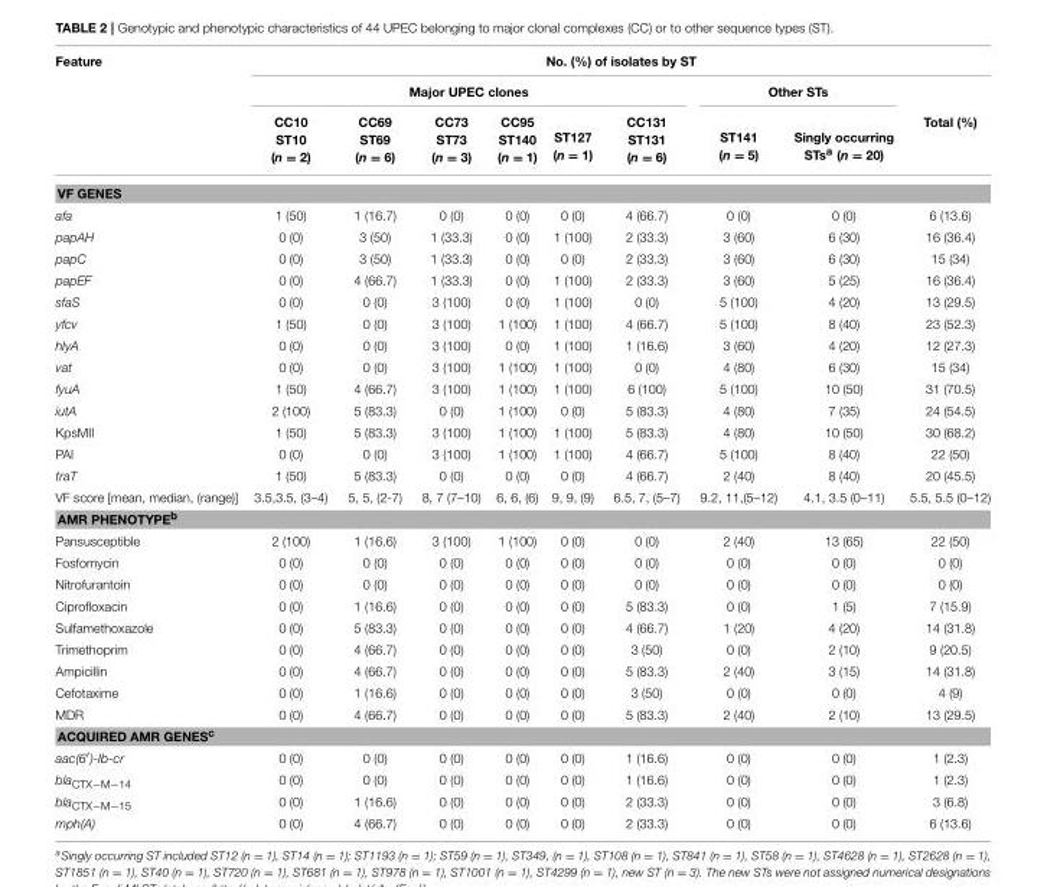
<table><thead><tr><td rowspan="3">Feature</td><td colspan="9">No. (%) of isolates by ST</td></tr><tr><td colspan="6">Major UPEC clones</td><td colspan="2">Other STs</td><td rowspan="2">Total (%)</td></tr><tr><td>CC10 ST10 (n = 2)</td><td>CC69 ST69 (n = 6)</td><td>CC73 ST73 (n = 3)</td><td>CC95 ST140 (n = 1)</td><td>ST127 (n = 1)</td><td>CC131 ST131 (n = 6)</td><td>ST141 (n = 5)</td><td>Singly occurring STs<sup>a</sup> (n = 20)</td></tr></thead><tbody><tr><td colspan="10">VF GENES</td></tr><tr><td>afa</td><td>1 (50)</td><td>1 (16.7)</td><td>0 (0)</td><td>0 (0)</td><td>0 (0)</td><td>4 (66.7)</td><td>0 (0)</td><td>0 (0)</td><td>6 (13.6)</td></tr><tr><td>papAH</td><td>0 (0)</td><td>3 (50)</td><td>1 (33.3)</td><td>0 (0)</td><td>1 (100)</td><td>2 (33.3)</td><td>3 (60)</td><td>6 (30)</td><td>16 (36.4)</td></tr><tr><td>papC</td><td>0 (0)</td><td>3 (50)</td><td>1 (33.3)</td><td>0 (0)</td><td>0 (0)</td><td>2 (33.3)</td><td>3 (60)</td><td>6 (30)</td><td>15 (34)</td></tr><tr><td>papEF</td><td>0 (0)</td><td>4 (66.7)</td><td>1 (33.3)</td><td>0 (0)</td><td>1 (100)</td><td>2 (33.3)</td><td>3 (60)</td><td>5 (25)</td><td>16 (36.4)</td></tr><tr><td>sfaS</td><td>0 (0)</td><td>0 (0)</td><td>3 (100)</td><td>0 (0)</td><td>1 (100)</td><td>0 (0)</td><td>5 (100)</td><td>4 (20)</td><td>13 (29.5)</td></tr><tr><td>yfcv</td><td>1 (50)</td><td>0 (0)</td><td>3 (100)</td><td>1 (100)</td><td>1 (100)</td><td>4 (66.7)</td><td>5 (100)</td><td>8 (40)</td><td>23 (52.3)</td></tr><tr><td>hlyA</td><td>0 (0)</td><td>0 (0)</td><td>3 (100)</td><td>0 (0)</td><td>1 (100)</td><td>1 (16.6)</td><td>3 (60)</td><td>4 (20)</td><td>12 (27.3)</td></tr><tr><td>vat</td><td>0 (0)</td><td>0 (0)</td><td>3 (100)</td><td>1 (100)</td><td>1 (100)</td><td>0 (0)</td><td>4 (80)</td><td>6 (30)</td><td>15 (34)</td></tr><tr><td>fyuA</td><td>1 (50)</td><td>4 (66.7)</td><td>3 (100)</td><td>1 (100)</td><td>1 (100)</td><td>6 (100)</td><td>5 (100)</td><td>10 (50)</td><td>31 (70.5)</td></tr><tr><td>iutA</td><td>2 (100)</td><td>5 (83.3)</td><td>0 (0)</td><td>1 (100)</td><td>0 (0)</td><td>5 (83.3)</td><td>4 (80)</td><td>7 (35)</td><td>24 (54.5)</td></tr><tr><td>KpsMII</td><td>1 (50)</td><td>5 (83.3)</td><td>3 (100)</td><td>1 (100)</td><td>1 (100)</td><td>5 (83.3)</td><td>4 (80)</td><td>10 (50)</td><td>30 (68.2)</td></tr><tr><td>PAI</td><td>0 (0)</td><td>0 (0)</td><td>3 (100)</td><td>1 (100)</td><td>1 (100)</td><td>4 (66.7)</td><td>5 (100)</td><td>8 (40)</td><td>22 (50)</td></tr><tr><td>traT</td><td>1 (50)</td><td>5 (83.3)</td><td>0 (0)</td><td>0 (0)</td><td>0 (0)</td><td>4 (66.7)</td><td>2 (40)</td><td>8 (40)</td><td>20 (45.5)</td></tr><tr><td>VF score [mean, median, (range)]</td><td>3.5,3.5, (3–4)</td><td>5, 5, (2-7)</td><td>8, 7 (7–10)</td><td>6, 6, (6)</td><td>9, 9, (9)</td><td>6.5, 7, (5–7)</td><td>9.2, 11,(5–12)</td><td>4.1, 3.5 (0–11)</td><td>5.5, 5.5 (0–12)</td></tr><tr><td colspan="10">AMR PHENOTYPE<sup>b</sup></td></tr><tr><td>Pansusceptible</td><td>2 (100)</td><td>1 (16.6)</td><td>3 (100)</td><td>1 (100)</td><td>0 (0)</td><td>0 (0)</td><td>2 (40)</td><td>13 (65)</td><td>22 (50)</td></tr><tr><td>Fosfomycin</td><td>0 (0)</td><td>0 (0)</td><td>0 (0)</td><td>0 (0)</td><td>0 (0)</td><td>0 (0)</td><td>0 (0)</td><td>0 (0)</td><td>0 (0)</td></tr><tr><td>Nitrofurantoin</td><td>0 (0)</td><td>0 (0)</td><td>0 (0)</td><td>0 (0)</td><td>0 (0)</td><td>0 (0)</td><td>0 (0)</td><td>0 (0)</td><td>0 (0)</td></tr><tr><td>Ciprofloxacin</td><td>0 (0)</td><td>1 (16.6)</td><td>0 (0)</td><td>0 (0)</td><td>0 (0)</td><td>5 (83.3)</td><td>0 (0)</td><td>1 (5)</td><td>7 (15.9)</td></tr><tr><td>Sulfamethoxazole</td><td>0 (0)</td><td>5 (83.3)</td><td>0 (0)</td><td>0 (0)</td><td>0 (0)</td><td>4 (66.7)</td><td>1 (20)</td><td>4 (20)</td><td>14 (31.8)</td></tr><tr><td>Trimethoprim</td><td>0 (0)</td><td>4 (66.7)</td><td>0 (0)</td><td>0 (0)</td><td>0 (0)</td><td>3 (50)</td><td>0 (0)</td><td>2 (10)</td><td>9 (20.5)</td></tr><tr><td>Ampicillin</td><td>0 (0)</td><td>4 (66.7)</td><td>0 (0)</td><td>0 (0)</td><td>0 (0)</td><td>5 (83.3)</td><td>2 (40)</td><td>3 (15)</td><td>14 (31.8)</td></tr><tr><td>Cefotaxime</td><td>0 (0)</td><td>1 (16.6)</td><td>0 (0)</td><td>0 (0)</td><td>0 (0)</td><td>3 (50)</td><td>0 (0)</td><td>0 (0)</td><td>4 (9)</td></tr><tr><td>MDR</td><td>0 (0)</td><td>4 (66.7)</td><td>0 (0)</td><td>0 (0)</td><td>0 (0)</td><td>5 (83.3)</td><td>2 (40)</td><td>2 (10)</td><td>13 (29.5)</td></tr><tr><td colspan="10">ACQUIRED AMR GENES<sup>c</sup></td></tr><tr><td>aac(6′)-Ib-cr</td><td>0 (0)</td><td>0 (0)</td><td>0 (0)</td><td>0 (0)</td><td>0 (0)</td><td>1 (16.6)</td><td>0 (0)</td><td>0 (0)</td><td>1 (2.3)</td></tr><tr><td>bla<sub>CTX−M−14</sub></td><td>0 (0)</td><td>0 (0)</td><td>0 (0)</td><td>0 (0)</td><td>0 (0)</td><td>1 (16.6)</td><td>0 (0)</td><td>0 (0)</td><td>1 (2.3)</td></tr><tr><td>bla<sub>CTX−M−15</sub></td><td>0 (0)</td><td>1 (16.6)</td><td>0 (0)</td><td>0 (0)</td><td>0 (0)</td><td>2 (33.3)</td><td>0 (0)</td><td>0 (0)</td><td>3 (6.8)</td></tr><tr><td>mph(A)</td><td>0 (0)</td><td>4 (66.7)</td><td>0 (0)</td><td>0 (0)</td><td>0 (0)</td><td>2 (33.3)</td><td>0 (0)</td><td>0 (0)</td><td>6 (13.6)</td></tr></tbody></table>